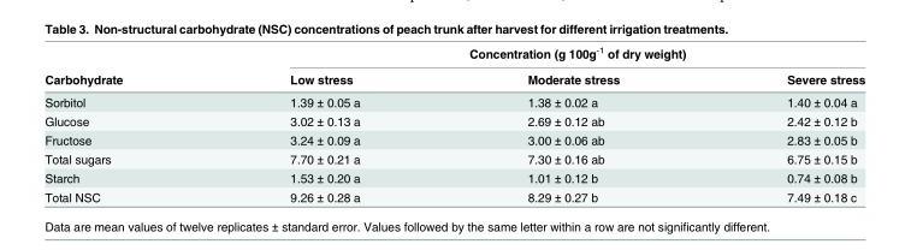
<table><thead><tr><td rowspan="2">Carbohydrate</td><td colspan="3">Concentration (g 100g<sup>-1</sup> of dry weight)</td></tr><tr><td>Low stress</td><td>Moderate stress</td><td>Severe stress</td></tr></thead><tbody><tr><td>Sorbitol</td><td>1.39 ± 0.05 a</td><td>1.38 ± 0.02 a</td><td>1.40 ± 0.04 a</td></tr><tr><td>Glucose</td><td>3.02 ± 0.13 a</td><td>2.69 ± 0.12 ab</td><td>2.42 ± 0.12 b</td></tr><tr><td>Fructose</td><td>3.24 ± 0.09 a</td><td>3.00 ± 0.06 ab</td><td>2.83 ± 0.05 b</td></tr><tr><td>Total sugars</td><td>7.70 ± 0.21 a</td><td>7.30 ± 0.16 ab</td><td>6.75 ± 0.15 b</td></tr><tr><td>Starch</td><td>1.53 ± 0.20 a</td><td>1.01 ± 0.12 b</td><td>0.74 ± 0.08 b</td></tr><tr><td>Total NSC</td><td>9.26 ± 0.28 a</td><td>8.29 ± 0.27 b</td><td>7.49 ± 0.18 c</td></tr></tbody></table>